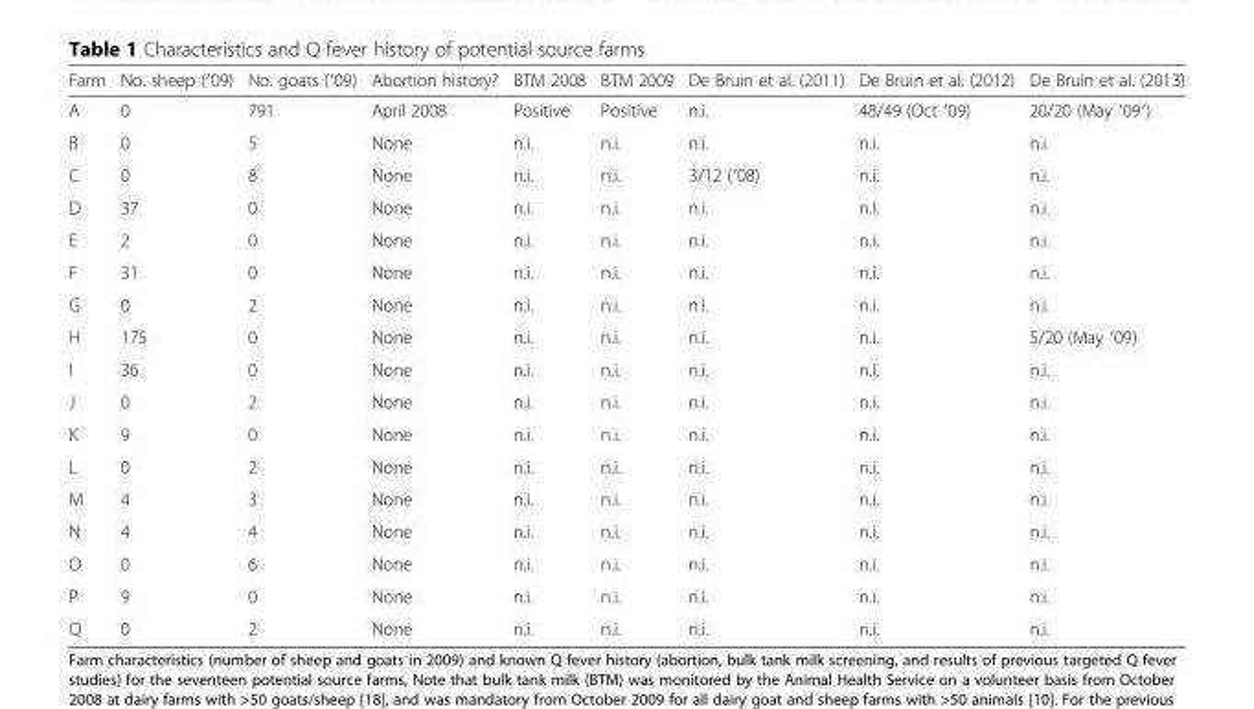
<table><thead><tr><td>Farm</td><td>No. sheep (′09)</td><td>No. goats (′09)</td><td>Abortion history?</td><td>BTM 2008</td><td>BTM 2009</td><td>De Bruin et al. (2011)</td><td>De Bruin et al. (2012)</td><td>De Bruin et al. (2013)</td></tr></thead><tbody><tr><td>A</td><td>0</td><td>791</td><td>April 2008</td><td>Positive</td><td>Positive</td><td>n.i.</td><td>48/49 (Oct ′09)</td><td>20/20 (May ′09′)</td></tr><tr><td>B</td><td>0</td><td>5</td><td>None</td><td>n.i.</td><td>n.i.</td><td>n.i.</td><td>n.i.</td><td>n.i.</td></tr><tr><td>C</td><td>0</td><td>8</td><td>None</td><td>n.i.</td><td>n.i.</td><td>3/12 (′08)</td><td>n.i.</td><td>n.i.</td></tr><tr><td>D</td><td>37</td><td>0</td><td>None</td><td>n.i.</td><td>n.i.</td><td>n.i.</td><td>n.i.</td><td>n.i.</td></tr><tr><td>E</td><td>2</td><td>0</td><td>None</td><td>n.i.</td><td>n.i.</td><td>n.i.</td><td>n.i.</td><td>n.i.</td></tr><tr><td>F</td><td>31</td><td>0</td><td>None</td><td>n.i.</td><td>n.i.</td><td>n.i.</td><td>n.i.</td><td>n.i.</td></tr><tr><td>G</td><td>0</td><td>2</td><td>None</td><td>n.i.</td><td>n.i.</td><td>n.i.</td><td>n.i.</td><td>n.i.</td></tr><tr><td>H</td><td>175</td><td>0</td><td>None</td><td>n.i.</td><td>n.i.</td><td>n.i.</td><td>n.i.</td><td>5/20 (May ′09)</td></tr><tr><td>I</td><td>36</td><td>0</td><td>None</td><td>n.i.</td><td>n.i.</td><td>n.i.</td><td>n.i.</td><td>n.i.</td></tr><tr><td>J</td><td>0</td><td>2</td><td>None</td><td>n.i.</td><td>n.i.</td><td>n.i.</td><td>n.i.</td><td>n.i.</td></tr><tr><td>K</td><td>9</td><td>0</td><td>None</td><td>n.i.</td><td>n.i.</td><td>n.i.</td><td>n.i.</td><td>n.i.</td></tr><tr><td>L</td><td>0</td><td>2</td><td>None</td><td>n.i.</td><td>n.i.</td><td>n.i.</td><td>n.i.</td><td>n.i.</td></tr><tr><td>M</td><td>4</td><td>3</td><td>None</td><td>n.i.</td><td>n.i.</td><td>n.i.</td><td>n.i.</td><td>n.i.</td></tr><tr><td>N</td><td>4</td><td>4</td><td>None</td><td>n.i.</td><td>n.i.</td><td>n.i.</td><td>n.i.</td><td>n.i.</td></tr><tr><td>O</td><td>0</td><td>6</td><td>None</td><td>n.i.</td><td>n.i.</td><td>n.i.</td><td>n.i.</td><td>n.i.</td></tr><tr><td>P</td><td>9</td><td>0</td><td>None</td><td>n.i.</td><td>n.i.</td><td>n.i.</td><td>n.i.</td><td>n.i.</td></tr><tr><td>Q</td><td>0</td><td>2</td><td>None</td><td>n.i.</td><td>n.i.</td><td>n.i.</td><td>n.i.</td><td>n.i.</td></tr></tbody></table>